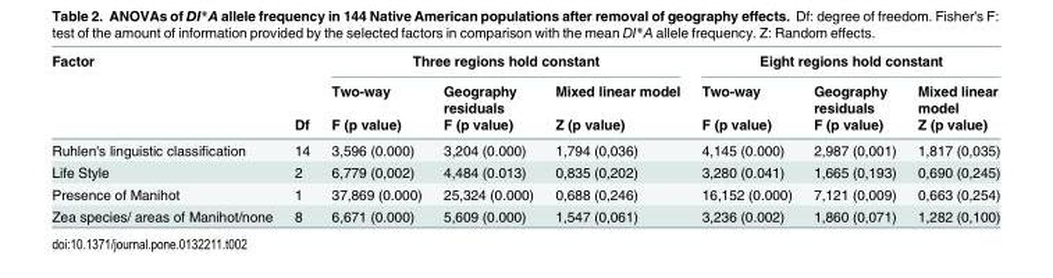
<table><thead><tr><td rowspan="3">Factor</td><td rowspan="3">Df</td><td colspan="3">Three regions hold constant</td><td colspan="3">Eight regions hold constant</td></tr><tr><td rowspan="2">Two-way F (p value)</td><td rowspan="2">Geography residuals F (p value)</td><td rowspan="2">Mixed linear model Z (p value)</td><td rowspan="2">Two-way F (p value)</td><td rowspan="2">Geography residuals F (p value)</td><td rowspan="2">Mixed linear model Z (p value)</td></tr><tr></tr></thead><tbody><tr><td>Ruhlen&#x27;s linguistic classification</td><td>14</td><td>3,596 (0.000)</td><td>3,204 (0.000)</td><td>1,794 (0,036)</td><td>4,145 (0.000)</td><td>2,987 (0,001)</td><td>1,817 (0,035)</td></tr><tr><td>Life Style</td><td>2</td><td>6,779 (0,002)</td><td>4,484 (0.013)</td><td>0,835 (0,202)</td><td>3,280 (0.041)</td><td>1,665 (0,193)</td><td>0,690 (0,245)</td></tr><tr><td>Presence of Manihot</td><td>1</td><td>37,869 (0.000)</td><td>25,324 (0.000)</td><td>0,688 (0,246)</td><td>16,152 (0.000)</td><td>7,121 (0,009)</td><td>0,663 (0,254)</td></tr><tr><td>Zea species/ areas of Manihot/none</td><td>8</td><td>6,671 (0.000)</td><td>5,609 (0.000)</td><td>1,547 (0,061)</td><td>3,236 (0.002)</td><td>1,860 (0,071)</td><td>1,282 (0,100)</td></tr></tbody></table>